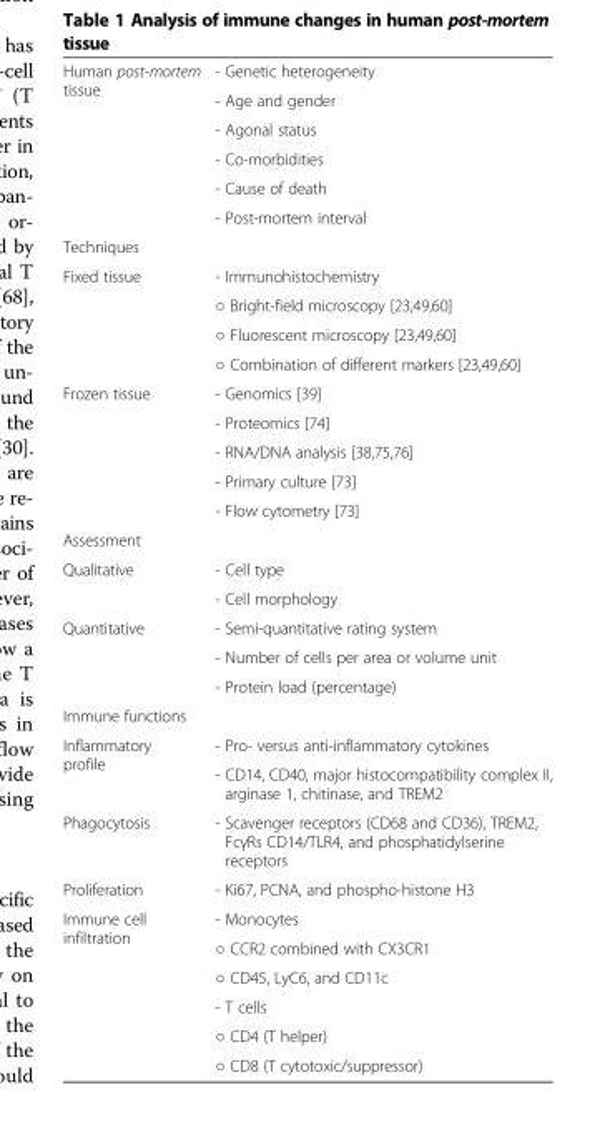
<table><tbody><tr><td rowspan="6">Human post-mortem tissue</td><td>- Genetic heterogeneity</td></tr><tr><td>- Age and gender</td></tr><tr><td>- Agonal status</td></tr><tr><td>- Co-morbidities</td></tr><tr><td>- Cause of death</td></tr><tr><td>- Post-mortem interval</td></tr><tr><td colspan="2">Techniques</td></tr><tr><td rowspan="4">Fixed tissue</td><td>- Immunohistochemistry</td></tr><tr><td>○ Bright-field microscopy [23,49,60]</td></tr><tr><td>○ Fluorescent microscopy [23,49,60]</td></tr><tr><td>○ Combination of different markers [23,49,60]</td></tr><tr><td rowspan="5">Frozen tissue</td><td>- Genomics [39]</td></tr><tr><td>- Proteomics [74]</td></tr><tr><td>- RNA/DNA analysis [38,75,76]</td></tr><tr><td>- Primary culture [73]</td></tr><tr><td>- Flow cytometry [73]</td></tr><tr><td colspan="2">Assessment</td></tr><tr><td rowspan="2">Qualitative</td><td>- Cell type</td></tr><tr><td>- Cell morphology</td></tr><tr><td rowspan="3">Quantitative</td><td>- Semi-quantitative rating system</td></tr><tr><td>- Number of cells per area or volume unit</td></tr><tr><td>- Protein load (percentage)</td></tr><tr><td colspan="2">Immune functions</td></tr><tr><td rowspan="2">Inflammatory profile</td><td>- Pro- versus anti-inflammatory cytokines</td></tr><tr><td>- CD14, CD40, major histocompatibility complex II, arginase 1, chitinase, and TREM2</td></tr><tr><td>Phagocytosis</td><td>- Scavenger receptors (CD68 and CD36), TREM2, FcγRs CD14/TLR4, and phosphatidylserine receptors</td></tr><tr><td>Proliferation</td><td>- Ki67, PCNA, and phospho-histone H3</td></tr><tr><td rowspan="6">Immune cell infiltration</td><td>- Monocytes</td></tr><tr><td>○ CCR2 combined with CX3CR1</td></tr><tr><td>○ CD45, LyC6, and CD11c</td></tr><tr><td>- T cells</td></tr><tr><td>○ CD4 (T helper)</td></tr><tr><td>○ CD8 (T cytotoxic/suppressor)</td></tr></tbody></table>